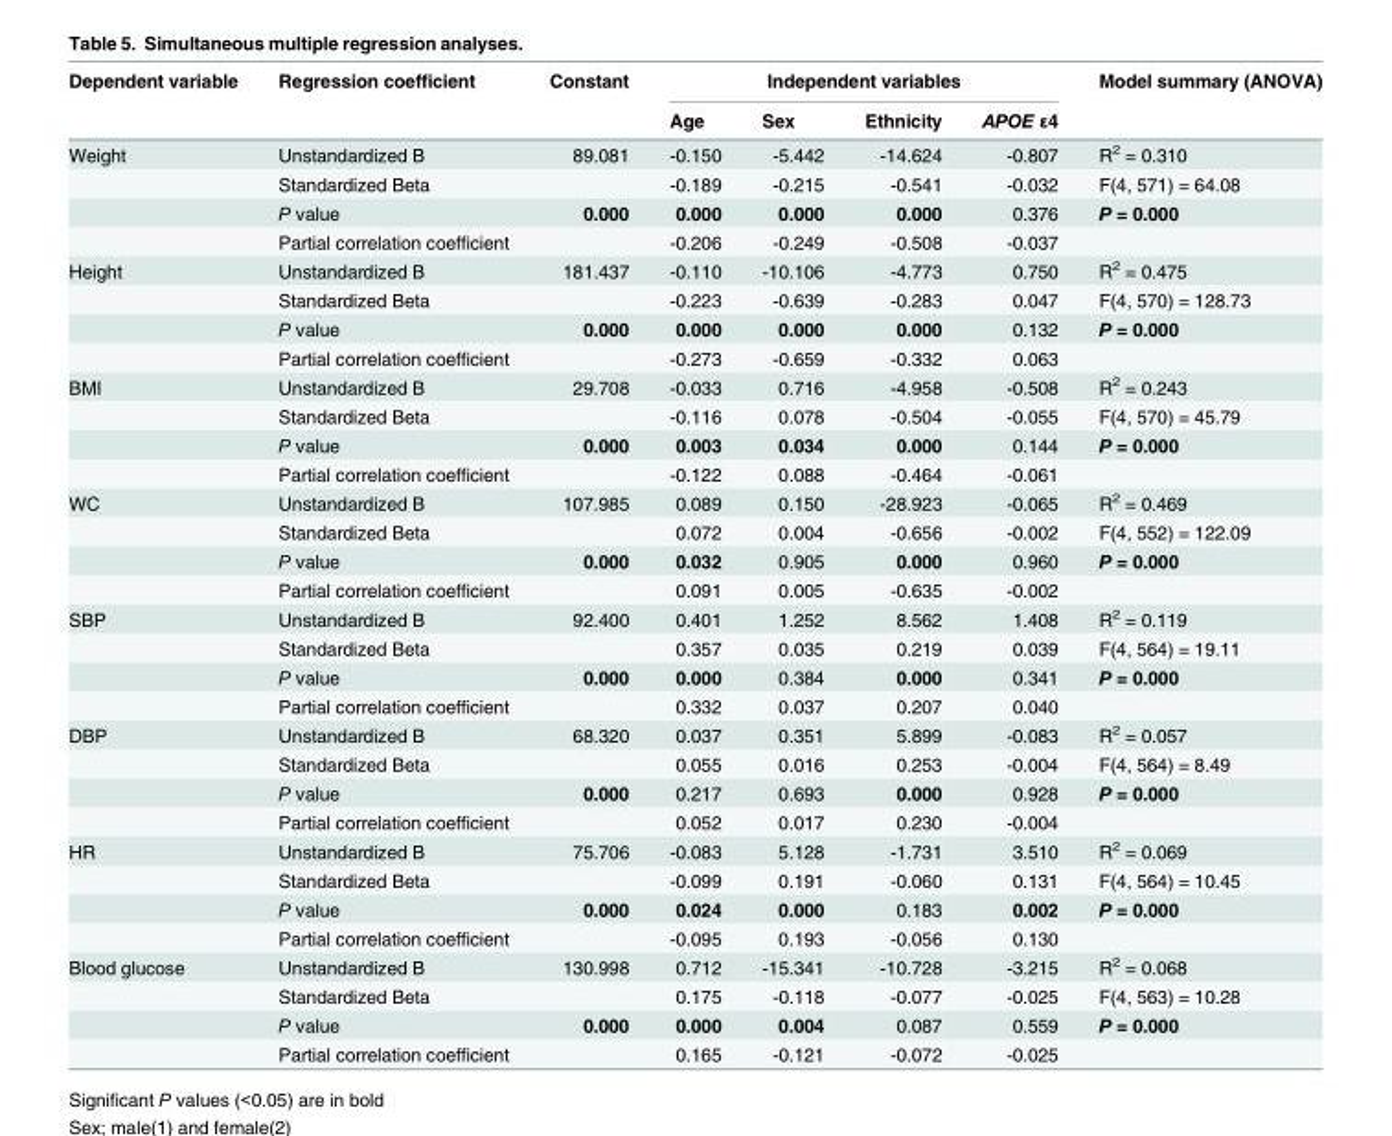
<table><thead><tr><td rowspan="2">Dependent variable</td><td rowspan="2">Regression coefficient</td><td rowspan="2">Constant</td><td colspan="4">Independent variables</td><td rowspan="2">Model summary (ANOVA)</td></tr><tr><td>Age</td><td>Sex</td><td>Ethnicity</td><td>APOE ε4</td></tr></thead><tbody><tr><td rowspan="4">Weight</td><td>Unstandardized B</td><td>89.081</td><td>-0.150</td><td>-5.442</td><td>-14.624</td><td>-0.807</td><td>R<sup>2</sup> = 0.310</td></tr><tr><td>Standardized Beta</td><td></td><td>-0.189</td><td>-0.215</td><td>-0.541</td><td>-0.032</td><td>F(4, 571) = 64.08</td></tr><tr><td>P value</td><td>0.000</td><td>0.000</td><td>0.000</td><td>0.000</td><td>0.376</td><td>P = 0.000</td></tr><tr><td>Partial correlation coefficient</td><td></td><td>-0.206</td><td>-0.249</td><td>-0.508</td><td>-0.037</td><td></td></tr><tr><td rowspan="4">Height</td><td>Unstandardized B</td><td>181.437</td><td>-0.110</td><td>-10.106</td><td>-4.773</td><td>0.750</td><td>R<sup>2</sup> = 0.475</td></tr><tr><td>Standardized Beta</td><td></td><td>-0.223</td><td>-0.639</td><td>-0.283</td><td>0.047</td><td>F(4, 570) = 128.73</td></tr><tr><td>P value</td><td>0.000</td><td>0.000</td><td>0.000</td><td>0.000</td><td>0.132</td><td>P = 0.000</td></tr><tr><td>Partial correlation coefficient</td><td></td><td>-0.273</td><td>-0.659</td><td>-0.332</td><td>0.063</td><td></td></tr><tr><td rowspan="4">BMI</td><td>Unstandardized B</td><td>29.708</td><td>-0.033</td><td>0.716</td><td>-4.958</td><td>-0.508</td><td>R<sup>2</sup> = 0.243</td></tr><tr><td>Standardized Beta</td><td></td><td>-0.116</td><td>0.078</td><td>-0.504</td><td>-0.055</td><td>F(4, 570) = 45.79</td></tr><tr><td>P value</td><td>0.000</td><td>0.003</td><td>0.034</td><td>0.000</td><td>0.144</td><td>P = 0.000</td></tr><tr><td>Partial correlation coefficient</td><td></td><td>-0.122</td><td>0.088</td><td>-0.464</td><td>-0.061</td><td></td></tr><tr><td rowspan="4">WC</td><td>Unstandardized B</td><td>107.985</td><td>0.089</td><td>0.150</td><td>-28.923</td><td>-0.065</td><td>R<sup>2</sup> = 0.469</td></tr><tr><td>Standardized Beta</td><td></td><td>0.072</td><td>0.004</td><td>-0.656</td><td>-0.002</td><td>F(4, 552) = 122.09</td></tr><tr><td>P value</td><td>0.000</td><td>0.032</td><td>0.905</td><td>0.000</td><td>0.960</td><td>P = 0.000</td></tr><tr><td>Partial correlation coefficient</td><td></td><td>0.091</td><td>0.005</td><td>-0.635</td><td>-0.002</td><td></td></tr><tr><td rowspan="4">SBP</td><td>Unstandardized B</td><td>92.400</td><td>0.401</td><td>1.252</td><td>8.562</td><td>1.408</td><td>R<sup>2</sup> = 0.119</td></tr><tr><td>Standardized Beta</td><td></td><td>0.357</td><td>0.035</td><td>0.219</td><td>0.039</td><td>F(4, 564) = 19.11</td></tr><tr><td>P value</td><td>0.000</td><td>0.000</td><td>0.384</td><td>0.000</td><td>0.341</td><td>P = 0.000</td></tr><tr><td>Partial correlation coefficient</td><td></td><td>0.332</td><td>0.037</td><td>0.207</td><td>0.040</td><td></td></tr><tr><td rowspan="4">DBP</td><td>Unstandardized B</td><td>68.320</td><td>0.037</td><td>0.351</td><td>5.899</td><td>-0.083</td><td>R<sup>2</sup> = 0.057</td></tr><tr><td>Standardized Beta</td><td></td><td>0.055</td><td>0.016</td><td>0.253</td><td>-0.004</td><td>F(4, 564) = 8.49</td></tr><tr><td>P value</td><td>0.000</td><td>0.217</td><td>0.693</td><td>0.000</td><td>0.928</td><td>P = 0.000</td></tr><tr><td>Partial correlation coefficient</td><td></td><td>0.052</td><td>0.017</td><td>0.230</td><td>-0.004</td><td></td></tr><tr><td rowspan="4">HR</td><td>Unstandardized B</td><td>75.706</td><td>-0.083</td><td>5.128</td><td>-1.731</td><td>3.510</td><td>R<sup>2</sup> = 0.069</td></tr><tr><td>Standardized Beta</td><td></td><td>-0.099</td><td>0.191</td><td>-0.060</td><td>0.131</td><td>F(4, 564) = 10.45</td></tr><tr><td>P value</td><td>0.000</td><td>0.024</td><td>0.000</td><td>0.183</td><td>0.002</td><td>P = 0.000</td></tr><tr><td>Partial correlation coefficient</td><td></td><td>-0.095</td><td>0.193</td><td>-0.056</td><td>0.130</td><td></td></tr><tr><td rowspan="4">Blood glucose</td><td>Unstandardized B</td><td>130.998</td><td>0.712</td><td>-15.341</td><td>-10.728</td><td>-3.215</td><td>R<sup>2</sup> = 0.068</td></tr><tr><td>Standardized Beta</td><td></td><td>0.175</td><td>-0.118</td><td>-0.077</td><td>-0.025</td><td>F(4, 563) = 10.28</td></tr><tr><td>P value</td><td>0.000</td><td>0.000</td><td>0.004</td><td>0.087</td><td>0.559</td><td>P = 0.000</td></tr><tr><td>Partial correlation coefficient</td><td></td><td>0.165</td><td>-0.121</td><td>-0.072</td><td>-0.025</td><td></td></tr></tbody></table>